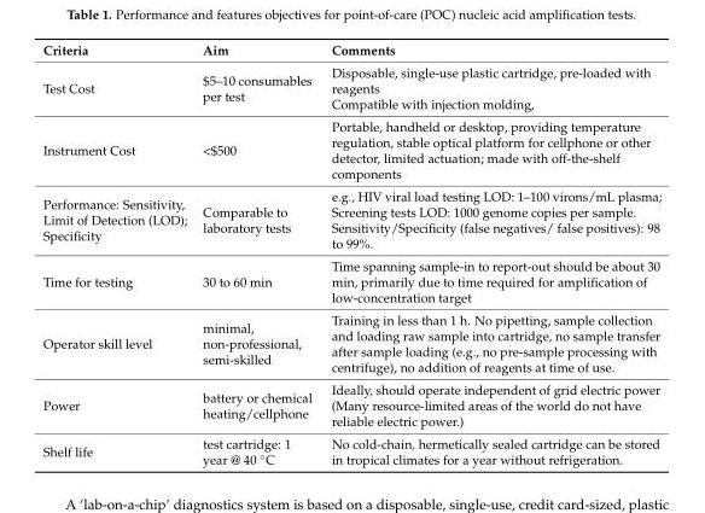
<table><thead><tr><td>Criteria</td><td>Aim</td><td>Comments</td></tr></thead><tbody><tr><td>Test Cost</td><td>$5–10 consumables per test</td><td>Disposable, single-use plastic cartridge, pre-loaded with reagents Compatible with injection molding,</td></tr><tr><td>Instrument Cost</td><td>&lt;$500</td><td>Portable, handheld or desktop, providing temperature regulation, stable optical platform for cellphone or other detector, limited actuation; made with off-the-shelf components</td></tr><tr><td>Performance: Sensitivity, Limit of Detection (LOD); Specificity</td><td>Comparable to laboratory tests</td><td>e.g., HIV viral load testing LOD: 1–100 virons/mL plasma; Screening tests LOD: 1000 genome copies per sample. Sensitivity/Specificity (false negatives/ false positives): 98 to 99%.</td></tr><tr><td>Time for testing</td><td>30 to 60 min</td><td>Time spanning sample-in to report-out should be about 30 min, primarily due to time required for amplification of low-concentration target</td></tr><tr><td>Operator skill level</td><td>minimal, non-professional, semi-skilled</td><td>Training in less than 1 h. No pipetting, sample collection and loading raw sample into cartridge, no sample transfer after sample loading (e.g., no pre-sample processing with centrifuge), no addition of reagents at time of use.</td></tr><tr><td>Power</td><td>battery or chemical heating/cellphone</td><td>Ideally, should operate independent of grid electric power (Many resource-limited areas of the world do not have reliable electric power.)</td></tr><tr><td>Shelf life</td><td>test cartridge: 1 year @ 40 ◦C</td><td>No cold-chain, hermetically sealed cartridge can be stored in tropical climates for a year without refrigeration.</td></tr></tbody></table>